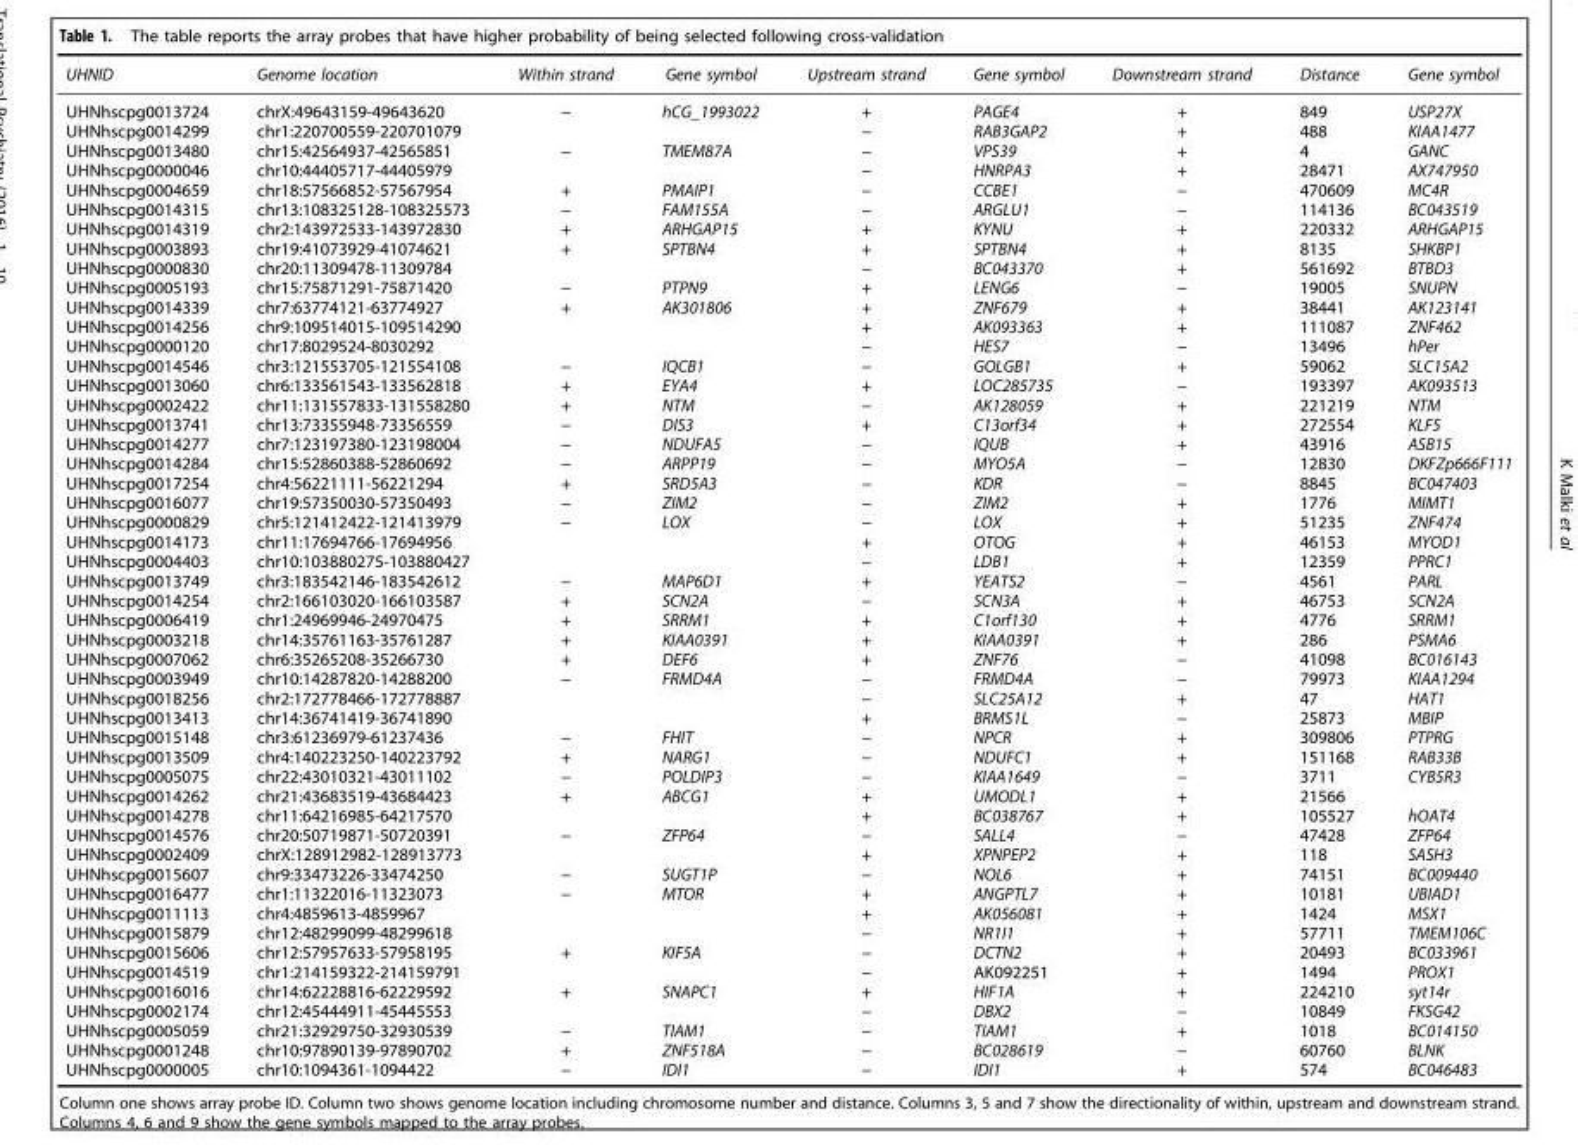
<table><thead><tr><td>UHNID</td><td>Genome location</td><td>Within strand</td><td>Gene symbol</td><td>Upstream strand</td><td>Gene symbol</td><td>Downstream strand</td><td>Distance</td><td>Gene symbol</td></tr></thead><tbody><tr><td>UHNhscpg0013724</td><td>chrX:49643159-49643620</td><td>−</td><td>hCG_1993022</td><td>+</td><td>PAGE4</td><td>+</td><td>849</td><td>USP27X</td></tr><tr><td>UHNhscpg0014299</td><td>chr1:220700559-220701079</td><td></td><td></td><td>−</td><td>RAB3GAP2</td><td>+</td><td>488</td><td>KIAA1477</td></tr><tr><td>UHNhscpg0013480</td><td>chr15:42564937-42565851</td><td>−</td><td>TMEM87A</td><td>−</td><td>VPS39</td><td>+</td><td>4</td><td>GANC</td></tr><tr><td>UHNhscpg0000046</td><td>chr10:44405717-44405979</td><td></td><td></td><td>−</td><td>HNRPA3</td><td>+</td><td>28471</td><td>AX747950</td></tr><tr><td>UHNhscpg0004659</td><td>chr18:57566852-57567954</td><td>+</td><td>PMAIP1</td><td>−</td><td>CCBE1</td><td>−</td><td>470609</td><td>MC4R</td></tr><tr><td>UHNhscpg0014315</td><td>chr13:108325128-108325573</td><td>−</td><td>FAM155A</td><td>−</td><td>ARGLU1</td><td>−</td><td>114136</td><td>BC043519</td></tr><tr><td>UHNhscpg0014319</td><td>chr2:143972533-143972830</td><td>+</td><td>ARHGAP15</td><td>+</td><td>KYNU</td><td>+</td><td>220332</td><td>ARHGAP15</td></tr><tr><td>UHNhscpg0003893</td><td>chr19:41073929-41074621</td><td>+</td><td>SPTBN4</td><td>+</td><td>SPTBN4</td><td>+</td><td>8135</td><td>SHKBP1</td></tr><tr><td>UHNhscpg0000830</td><td>chr20:11309478-11309784</td><td></td><td></td><td>−</td><td>BC043370</td><td>+</td><td>561692</td><td>BTBD3</td></tr><tr><td>UHNhscpg0005193</td><td>chr15:75871291-75871420</td><td>−</td><td>PTPN9</td><td>+</td><td>LENG6</td><td>−</td><td>19005</td><td>SNUPN</td></tr><tr><td>UHNhscpg0014339</td><td>chr7:63774121-63774927</td><td>+</td><td>AK301806</td><td>+</td><td>ZNF679</td><td>+</td><td>38441</td><td>AK123141</td></tr><tr><td>UHNhscpg0014256</td><td>chr9:109514015-109514290</td><td></td><td></td><td>+</td><td>AK093363</td><td>+</td><td>111087</td><td>ZNF462</td></tr><tr><td>UHNhscpg0000120</td><td>chr17:8029524-8030292</td><td></td><td></td><td>−</td><td>HES7</td><td>−</td><td>13496</td><td>hPer</td></tr><tr><td>UHNhscpg0014546</td><td>chr3:121553705-121554108</td><td>−</td><td>IQCB1</td><td>−</td><td>GOLGB1</td><td>+</td><td>59062</td><td>SLC15A2</td></tr><tr><td>UHNhscpg0013060</td><td>chr6:133561543-133562818</td><td>+</td><td>EYA4</td><td>+</td><td>LOC285735</td><td>−</td><td>193397</td><td>AK093513</td></tr><tr><td>UHNhscpg0002422</td><td>chr11:131557833-131558280</td><td>+</td><td>NTM</td><td>−</td><td>AK128059</td><td>+</td><td>221219</td><td>NTM</td></tr><tr><td>UHNhscpg0013741</td><td>chr13:73355948-73356559</td><td>−</td><td>DIS3</td><td>+</td><td>C13orf34</td><td>+</td><td>272554</td><td>KLF5</td></tr><tr><td>UHNhscpg0014277</td><td>chr7:123197380-123198004</td><td>−</td><td>NDUFA5</td><td>−</td><td>IQUB</td><td>+</td><td>43916</td><td>ASB15</td></tr><tr><td>UHNhscpg0014284</td><td>chr15:52860388-52860692</td><td>−</td><td>ARPP19</td><td>−</td><td>MYO5A</td><td>−</td><td>12830</td><td>DKFZp666F111</td></tr><tr><td>UHNhscpg0017254</td><td>chr4:56221111-56221294</td><td>+</td><td>SRD5A3</td><td>−</td><td>KDR</td><td>−</td><td>8845</td><td>BC047403</td></tr><tr><td>UHNhscpg0016077</td><td>chr19:57350030-57350493</td><td>−</td><td>ZIM2</td><td>−</td><td>ZIM2</td><td>+</td><td>1776</td><td>MIMT1</td></tr><tr><td>UHNhscpg0000829</td><td>chr5:121412422-121413979</td><td>−</td><td>LOX</td><td>−</td><td>LOX</td><td>+</td><td>51235</td><td>ZNF474</td></tr><tr><td>UHNhscpg0014173</td><td>chr11:17694766-17694956</td><td></td><td></td><td>+</td><td>OTOG</td><td>+</td><td>46153</td><td>MYOD1</td></tr><tr><td>UHNhscpg0004403</td><td>chr10:103880275-103880427</td><td></td><td></td><td>−</td><td>LDB1</td><td>+</td><td>12359</td><td>PPRC1</td></tr><tr><td>UHNhscpg0013749</td><td>chr3:183542146-183542612</td><td>−</td><td>MAP6D1</td><td>+</td><td>YEATS2</td><td>−</td><td>4561</td><td>PARL</td></tr><tr><td>UHNhscpg0014254</td><td>chr2:166103020-166103587</td><td>+</td><td>SCN2A</td><td>−</td><td>SCN3A</td><td>+</td><td>46753</td><td>SCN2A</td></tr><tr><td>UHNhscpg0006419</td><td>chr1:24969946-24970475</td><td>+</td><td>SRRM1</td><td>+</td><td>C1orf130</td><td>+</td><td>4776</td><td>SRRM1</td></tr><tr><td>UHNhscpg0003218</td><td>chr14:35761163-35761287</td><td>+</td><td>KIAA0391</td><td>+</td><td>KIAA0391</td><td>+</td><td>286</td><td>PSMA6</td></tr><tr><td>UHNhscpg0007062</td><td>chr6:35265208-35266730</td><td>+</td><td>DEF6</td><td>+</td><td>ZNF76</td><td>−</td><td>41098</td><td>BC016143</td></tr><tr><td>UHNhscpg0003949</td><td>chr10:14287820-14288200</td><td>−</td><td>FRMD4A</td><td>−</td><td>FRMD4A</td><td>−</td><td>79973</td><td>KIAA1294</td></tr><tr><td>UHNhscpg0018256</td><td>chr2:172778466-172778887</td><td></td><td></td><td>−</td><td>SLC25A12</td><td>+</td><td>47</td><td>HAT1</td></tr><tr><td>UHNhscpg0013413</td><td>chr14:36741419-36741890</td><td></td><td></td><td>+</td><td>BRMS1L</td><td>−</td><td>25873</td><td>MBIP</td></tr><tr><td>UHNhscpg0015148</td><td>chr3:61236979-61237436</td><td>−</td><td>FHIT</td><td>−</td><td>NPCR</td><td>+</td><td>309806</td><td>PTPRG</td></tr><tr><td>UHNhscpg0013509</td><td>chr4:140223250-140223792</td><td>+</td><td>NARG1</td><td>−</td><td>NDUFC1</td><td>+</td><td>151168</td><td>RAB33B</td></tr><tr><td>UHNhscpg0005075</td><td>chr22:43010321-43011102</td><td>−</td><td>POLDIP3</td><td>−</td><td>KIAA1649</td><td>−</td><td>3711</td><td>CYB5R3</td></tr><tr><td>UHNhscpg0014262</td><td>chr21:43683519-43684423</td><td>+</td><td>ABCG1</td><td>+</td><td>UMODL1</td><td>+</td><td>21566</td><td></td></tr><tr><td>UHNhscpg0014278</td><td>chr11:64216985-64217570</td><td></td><td></td><td>+</td><td>BC038767</td><td>+</td><td>105527</td><td>hOAT4</td></tr><tr><td>UHNhscpg0014576</td><td>chr20:50719871-50720391</td><td>−</td><td>ZFP64</td><td>−</td><td>SALL4</td><td>−</td><td>47428</td><td>ZFP64</td></tr><tr><td>UHNhscpg0002409</td><td>chrX:128912982-128913773</td><td></td><td></td><td>+</td><td>XPNPEP2</td><td>+</td><td>118</td><td>SASH3</td></tr><tr><td>UHNhscpg0015607</td><td>chr9:33473226-33474250</td><td>−</td><td>SUGT1P</td><td>−</td><td>NOL6</td><td>+</td><td>74151</td><td>BC009440</td></tr><tr><td>UHNhscpg0016477</td><td>chr1:11322016-11323073</td><td>−</td><td>MTOR</td><td>+</td><td>ANGPTL7</td><td>+</td><td>10181</td><td>UBIAD1</td></tr><tr><td>UHNhscpg0011113</td><td>chr4:4859613-4859967</td><td></td><td></td><td>+</td><td>AK056081</td><td>+</td><td>1424</td><td>MSX1</td></tr><tr><td>UHNhscpg0015879</td><td>chr12:48299099-48299618</td><td></td><td></td><td>−</td><td>NR1I1</td><td>+</td><td>57711</td><td>TMEM106C</td></tr><tr><td>UHNhscpg0015606</td><td>chr12:57957633-57958195</td><td>+</td><td>KIF5A</td><td>−</td><td>DCTN2</td><td>+</td><td>20493</td><td>BC033961</td></tr><tr><td>UHNhscpg0014519</td><td>chr1:214159322-214159791</td><td></td><td></td><td>−</td><td>AK092251</td><td>+</td><td>1494</td><td>PROX1</td></tr><tr><td>UHNhscpg0016016</td><td>chr14:62228816-62229592</td><td>+</td><td>SNAPC1</td><td>+</td><td>HIF1A</td><td>+</td><td>224210</td><td>syt14r</td></tr><tr><td>UHNhscpg0002174</td><td>chr12:45444911-45445553</td><td></td><td></td><td>−</td><td>DBX2</td><td>−</td><td>10849</td><td>FKSG42</td></tr><tr><td>UHNhscpg0005059</td><td>chr21:32929750-32930539</td><td>−</td><td>TIAM1</td><td>−</td><td>TIAM1</td><td>+</td><td>1018</td><td>BC014150</td></tr><tr><td>UHNhscpg0001248</td><td>chr10:97890139-97890702</td><td>+</td><td>ZNF518A</td><td>−</td><td>BC028619</td><td>−</td><td>60760</td><td>BLNK</td></tr><tr><td>UHNhscpg0000005</td><td>chr10:1094361-1094422</td><td>−</td><td>IDI1</td><td>−</td><td>IDI1</td><td>+</td><td>574</td><td>BC046483</td></tr></tbody></table>